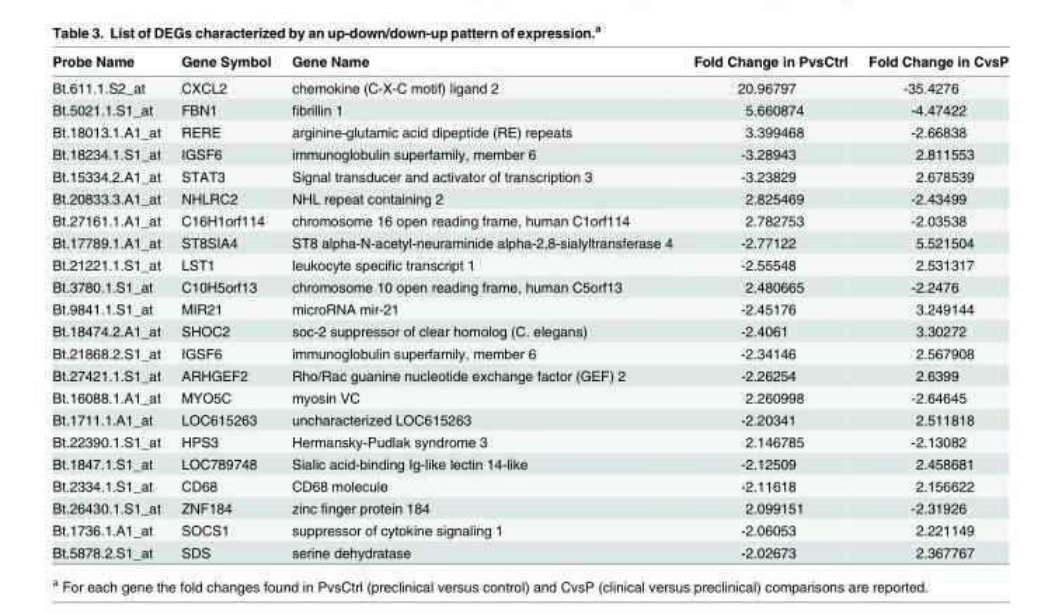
<table><thead><tr><td>Probe Name</td><td>Gene Symbol</td><td>Gene Name</td><td>Fold Change in PvsCtrl</td><td>Fold Change in CvsP</td></tr></thead><tbody><tr><td>Bt.611.1.S2_at</td><td>CXCL2</td><td>chemokine (C-X-C motif) ligand 2</td><td>20.96797</td><td>-35.4276</td></tr><tr><td>Bt.5021.1.S1_at</td><td>FBN1</td><td>fibrillin 1</td><td>5.660874</td><td>-4.47422</td></tr><tr><td>Bt.18013.1.A1_at</td><td>RERE</td><td>arginine-glutamic acid dipeptide (RE) repeats</td><td>3.399468</td><td>-2.66838</td></tr><tr><td>Bt.18234.1.S1_at</td><td>IGSF6</td><td>immunoglobulin superfamily, member 6</td><td>-3.28943</td><td>2.811553</td></tr><tr><td>Bt.15334.2.A1_at</td><td>STAT3</td><td>Signal transducer and activator of transcription 3</td><td>-3.23829</td><td>2.678539</td></tr><tr><td>Bt.20833.3.A1_at</td><td>NHLRC2</td><td>NHL repeat containing 2</td><td>2.825469</td><td>-2.43499</td></tr><tr><td>Bt.27161.1.A1_at</td><td>C16H1orf114</td><td>chromosome 16 open reading frame, human C1orf114</td><td>2.782753</td><td>-2.03538</td></tr><tr><td>Bt.17789.1.A1_at</td><td>ST8SIA4</td><td>ST8 alpha-N-acetyl-neuraminide alpha-2,8-sialyltransferase 4</td><td>-2.77122</td><td>5.521504</td></tr><tr><td>Bt.21221.1.S1_at</td><td>LST1</td><td>leukocyte specific transcript 1</td><td>-2.55548</td><td>2.531317</td></tr><tr><td>Bt.3780.1.S1_at</td><td>C10H5orf13</td><td>chromosome 10 open reading frame, human C5orf13</td><td>2.480665</td><td>-2.2476</td></tr><tr><td>Bt.9841.1.S1_at</td><td>MIR21</td><td>microRNA mir-21</td><td>-2.45176</td><td>3.249144</td></tr><tr><td>Bt.18474.2.A1_at</td><td>SHOC2</td><td>soc-2 suppressor of clear homolog (C. elegans)</td><td>-2.4061</td><td>3.30272</td></tr><tr><td>Bt.21868.2.S1_at</td><td>IGSF6</td><td>immunoglobulin superfamily, member 6</td><td>-2.34146</td><td>2.567908</td></tr><tr><td>Bt.27421.1.S1_at</td><td>ARHGEF2</td><td>Rho/Rac guanine nucleotide exchange factor (GEF) 2</td><td>-2.26254</td><td>2.6399</td></tr><tr><td>Bt.16088.1.A1_at</td><td>MYO5C</td><td>myosin VC</td><td>2.260998</td><td>-2.64645</td></tr><tr><td>Bt.1711.1.A1_at</td><td>LOC615263</td><td>uncharacterized LOC615263</td><td>-2.20341</td><td>2.511818</td></tr><tr><td>Bt.22390.1.S1_at</td><td>HPS3</td><td>Hermansky-Pudlak syndrome 3</td><td>2.146785</td><td>-2.13082</td></tr><tr><td>Bt.1847.1.S1_at</td><td>LOC789748</td><td>Sialic acid-binding Ig-like lectin 14-like</td><td>-2.12509</td><td>2.458681</td></tr><tr><td>Bt.2334.1.S1_at</td><td>CD68</td><td>CD68 molecule</td><td>-2.11618</td><td>2.156622</td></tr><tr><td>Bt.26430.1.S1_at</td><td>ZNF184</td><td>zinc finger protein 184</td><td>2.099151</td><td>-2.31926</td></tr><tr><td>Bt.1736.1.A1_at</td><td>SOCS1</td><td>suppressor of cytokine signaling 1</td><td>-2.06053</td><td>2.221149</td></tr><tr><td>Bt.5878.2.S1_at</td><td>SDS</td><td>serine dehydratase</td><td>-2.02673</td><td>2.367767</td></tr></tbody></table>